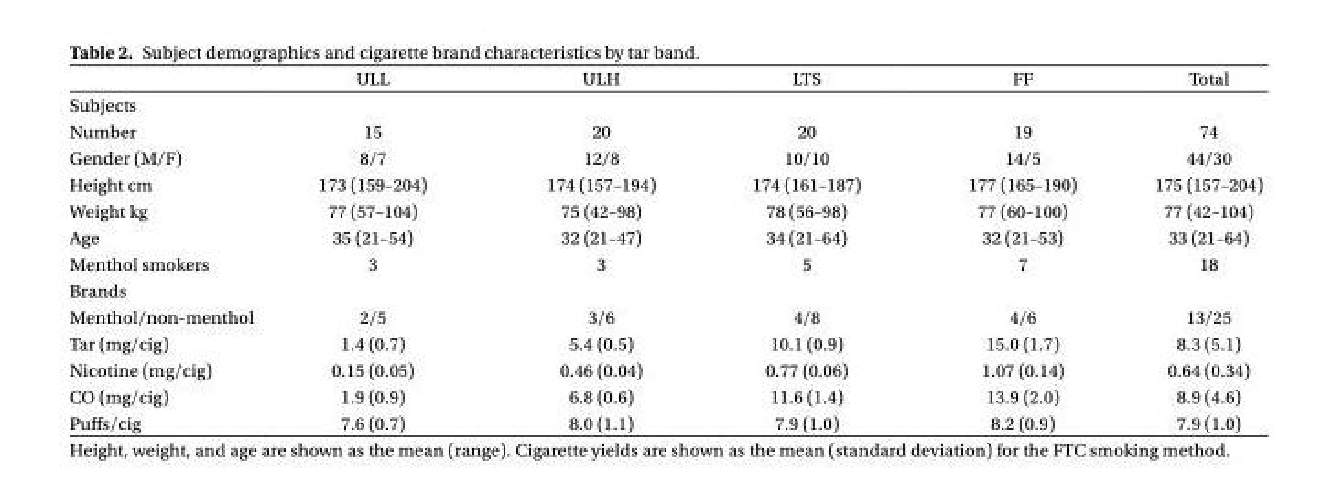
<table><thead><tr><td></td><td>ULL</td><td>ULH</td><td>LTS</td><td>FF</td><td>Total</td></tr></thead><tbody><tr><td colspan="6">Subjects</td></tr><tr><td>Number</td><td>15</td><td>20</td><td>20</td><td>19</td><td>74</td></tr><tr><td>Gender (M/F)</td><td>8/7</td><td>12/8</td><td>10/10</td><td>14/5</td><td>44/30</td></tr><tr><td>Height cm</td><td>173 (159–204)</td><td>174 (157–194)</td><td>174 (161–187)</td><td>177 (165–190)</td><td>175 (157–204)</td></tr><tr><td>Weight kg</td><td>77 (57–104)</td><td>75 (42–98)</td><td>78 (56–98)</td><td>77 (60–100)</td><td>77 (42–104)</td></tr><tr><td>Age</td><td>35 (21–54)</td><td>32 (21–47)</td><td>34 (21–64)</td><td>32 (21–53)</td><td>33 (21–64)</td></tr><tr><td>Menthol smokers</td><td>3</td><td>3</td><td>5</td><td>7</td><td>18</td></tr><tr><td colspan="6">Brands</td></tr><tr><td>Menthol/non-menthol</td><td>2/5</td><td>3/6</td><td>4/8</td><td>4/6</td><td>13/25</td></tr><tr><td>Tar (mg/cig)</td><td>1.4 (0.7)</td><td>5.4 (0.5)</td><td>10.1 (0.9)</td><td>15.0 (1.7)</td><td>8.3 (5.1)</td></tr><tr><td>Nicotine (mg/cig)</td><td>0.15 (0.05)</td><td>0.46 (0.04)</td><td>0.77 (0.06)</td><td>1.07 (0.14)</td><td>0.64 (0.34)</td></tr><tr><td>CO (mg/cig)</td><td>1.9 (0.9)</td><td>6.8 (0.6)</td><td>11.6 (1.4)</td><td>13.9 (2.0)</td><td>8.9 (4.6)</td></tr><tr><td>Puffs/cig</td><td>7.6 (0.7)</td><td>8.0 (1.1)</td><td>7.9 (1.0)</td><td>8.2 (0.9)</td><td>7.9 (1.0)</td></tr></tbody></table>